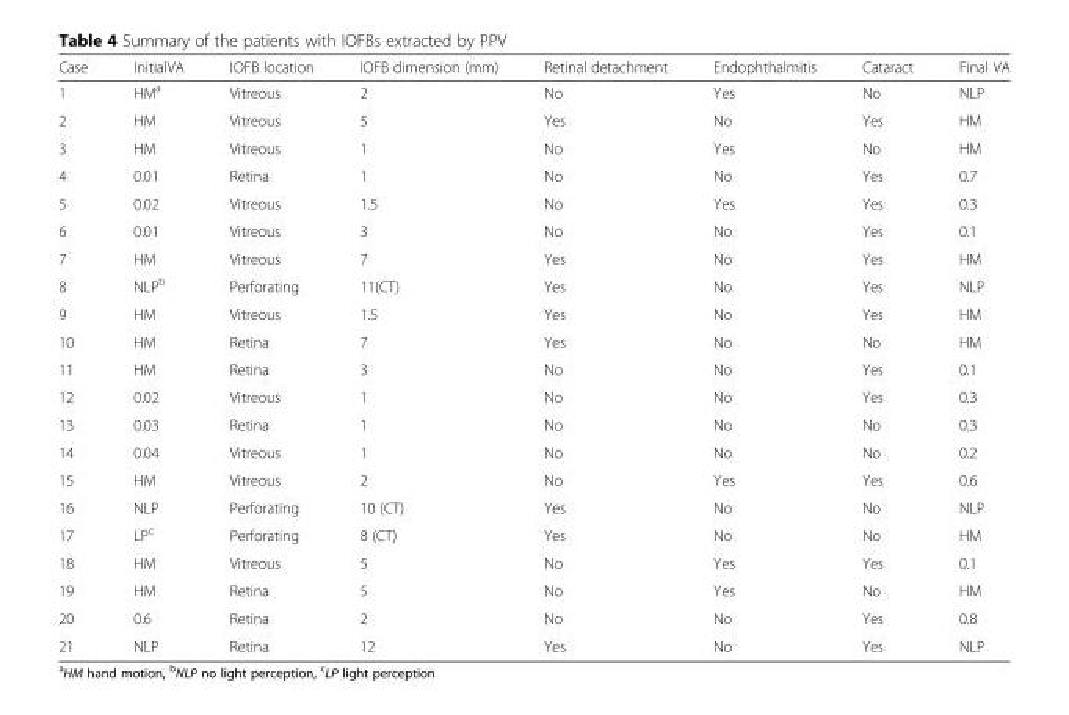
<table><thead><tr><td>Case</td><td>InitialVA</td><td>IOFB location</td><td>IOFB dimension (mm)</td><td>Retinal detachment</td><td>Endophthalmitis</td><td>Cataract</td><td>Final VA</td></tr></thead><tbody><tr><td>1</td><td>HM<sup>a</sup></td><td>Vitreous</td><td>2</td><td>No</td><td>Yes</td><td>No</td><td>NLP</td></tr><tr><td>2</td><td>HM</td><td>Vitreous</td><td>5</td><td>Yes</td><td>No</td><td>Yes</td><td>HM</td></tr><tr><td>3</td><td>HM</td><td>Vitreous</td><td>1</td><td>No</td><td>Yes</td><td>No</td><td>HM</td></tr><tr><td>4</td><td>0.01</td><td>Retina</td><td>1</td><td>No</td><td>No</td><td>Yes</td><td>0.7</td></tr><tr><td>5</td><td>0.02</td><td>Vitreous</td><td>1.5</td><td>No</td><td>Yes</td><td>Yes</td><td>0.3</td></tr><tr><td>6</td><td>0.01</td><td>Vitreous</td><td>3</td><td>No</td><td>No</td><td>Yes</td><td>0.1</td></tr><tr><td>7</td><td>HM</td><td>Vitreous</td><td>7</td><td>Yes</td><td>No</td><td>Yes</td><td>HM</td></tr><tr><td>8</td><td>NLP<sup>b</sup></td><td>Perforating</td><td>11(CT)</td><td>Yes</td><td>No</td><td>Yes</td><td>NLP</td></tr><tr><td>9</td><td>HM</td><td>Vitreous</td><td>1.5</td><td>Yes</td><td>No</td><td>Yes</td><td>HM</td></tr><tr><td>10</td><td>HM</td><td>Retina</td><td>7</td><td>Yes</td><td>No</td><td>No</td><td>HM</td></tr><tr><td>11</td><td>HM</td><td>Retina</td><td>3</td><td>No</td><td>No</td><td>Yes</td><td>0.1</td></tr><tr><td>12</td><td>0.02</td><td>Vitreous</td><td>1</td><td>No</td><td>No</td><td>Yes</td><td>0.3</td></tr><tr><td>13</td><td>0.03</td><td>Retina</td><td>1</td><td>No</td><td>No</td><td>No</td><td>0.3</td></tr><tr><td>14</td><td>0.04</td><td>Vitreous</td><td>1</td><td>No</td><td>No</td><td>No</td><td>0.2</td></tr><tr><td>15</td><td>HM</td><td>Vitreous</td><td>2</td><td>No</td><td>Yes</td><td>Yes</td><td>0.6</td></tr><tr><td>16</td><td>NLP</td><td>Perforating</td><td>10 (CT)</td><td>Yes</td><td>No</td><td>No</td><td>NLP</td></tr><tr><td>17</td><td>LP<sup>c</sup></td><td>Perforating</td><td>8 (CT)</td><td>Yes</td><td>No</td><td>No</td><td>HM</td></tr><tr><td>18</td><td>HM</td><td>Vitreous</td><td>5</td><td>No</td><td>Yes</td><td>Yes</td><td>0.1</td></tr><tr><td>19</td><td>HM</td><td>Retina</td><td>5</td><td>No</td><td>Yes</td><td>No</td><td>HM</td></tr><tr><td>20</td><td>0.6</td><td>Retina</td><td>2</td><td>No</td><td>No</td><td>Yes</td><td>0.8</td></tr><tr><td>21</td><td>NLP</td><td>Retina</td><td>12</td><td>Yes</td><td>No</td><td>Yes</td><td>NLP</td></tr></tbody></table>